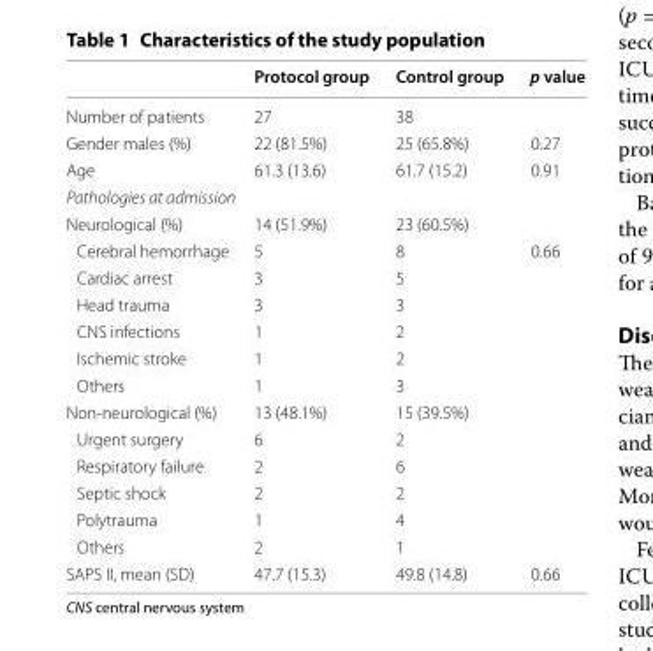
<table><thead><tr><td></td><td>Protocol group</td><td>Control group</td><td>p value</td></tr></thead><tbody><tr><td>Number of patients</td><td>27</td><td>38</td><td></td></tr><tr><td>Gender males (%)</td><td>22 (81.5%)</td><td>25 (65.8%)</td><td>0.27</td></tr><tr><td>Age</td><td>61.3 (13.6)</td><td>61.7 (15.2)</td><td>0.91</td></tr><tr><td colspan="4">Pathologies at admission</td></tr><tr><td>Neurological (%)</td><td>14 (51.9%)</td><td>23 (60.5%)</td><td></td></tr><tr><td>Cerebral hemorrhage</td><td>5</td><td>8</td><td>0.66</td></tr><tr><td>Cardiac arrest</td><td>3</td><td>5</td><td></td></tr><tr><td>Head trauma</td><td>3</td><td>3</td><td></td></tr><tr><td>CNS infections</td><td>1</td><td>2</td><td></td></tr><tr><td>Ischemic stroke</td><td>1</td><td>2</td><td></td></tr><tr><td>Others</td><td>1</td><td>3</td><td></td></tr><tr><td>Non-neurological (%)</td><td>13 (48.1%)</td><td>15 (39.5%)</td><td></td></tr><tr><td>Urgent surgery</td><td>6</td><td>2</td><td></td></tr><tr><td>Respiratory failure</td><td>2</td><td>6</td><td></td></tr><tr><td>Septic shock</td><td>2</td><td>2</td><td></td></tr><tr><td>Polytrauma</td><td>1</td><td>4</td><td></td></tr><tr><td>Others</td><td>2</td><td>1</td><td></td></tr><tr><td>SAPS II, mean (SD)</td><td>47.7 (15.3)</td><td>49.8 (14.8)</td><td>0.66</td></tr></tbody></table>